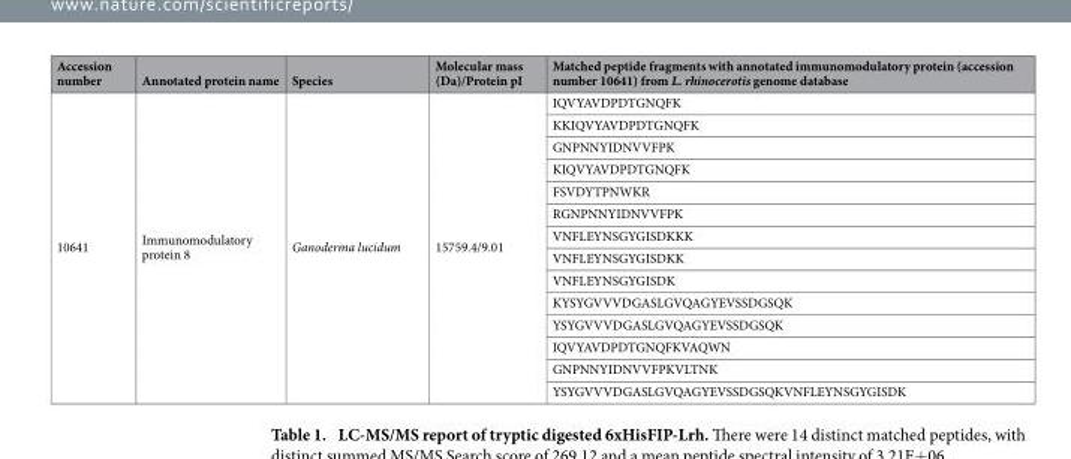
<table><thead><tr><td>Accession number</td><td>Annotated protein name</td><td>Species</td><td>Molecular mass (Da)/Protein pI</td><td>Matched peptide fragments with annotated immunomodulatory protein (accession number 10641) from L. rhinocerotis genome database</td></tr></thead><tbody><tr><td rowspan="14">10641</td><td rowspan="14">Immunomodulatory protein 8</td><td rowspan="14">Ganoderma lucidum</td><td rowspan="14">15759.4/9.01</td><td>IQVYAVDPDTGNQFK</td></tr><tr><td>KKIQVYAVDPDTGNQFK</td></tr><tr><td>GNPNNYIDNVVFPK</td></tr><tr><td>KIQVYAVDPDTGNQFK</td></tr><tr><td>FSVDYTPNWKR</td></tr><tr><td>RGNPNNYIDNVVFPK</td></tr><tr><td>VNFLEYNSGYGISDKKK</td></tr><tr><td>VNFLEYNSGYGISDKK</td></tr><tr><td>VNFLEYNSGYGISDK</td></tr><tr><td>KYSYGVVVDGASLGVQAGYEVSSDGSQK</td></tr><tr><td>YSYGVVVDGASLGVQAGYEVSSDGSQK</td></tr><tr><td>IQVYAVDPDTGNQFKVAQWN</td></tr><tr><td>GNPNNYIDNVVFPKVLTNK</td></tr><tr><td>YSYGVVVDGASLGVQAGYEVSSDGSQKVNFLEYNSGYGISDK</td></tr></tbody></table>